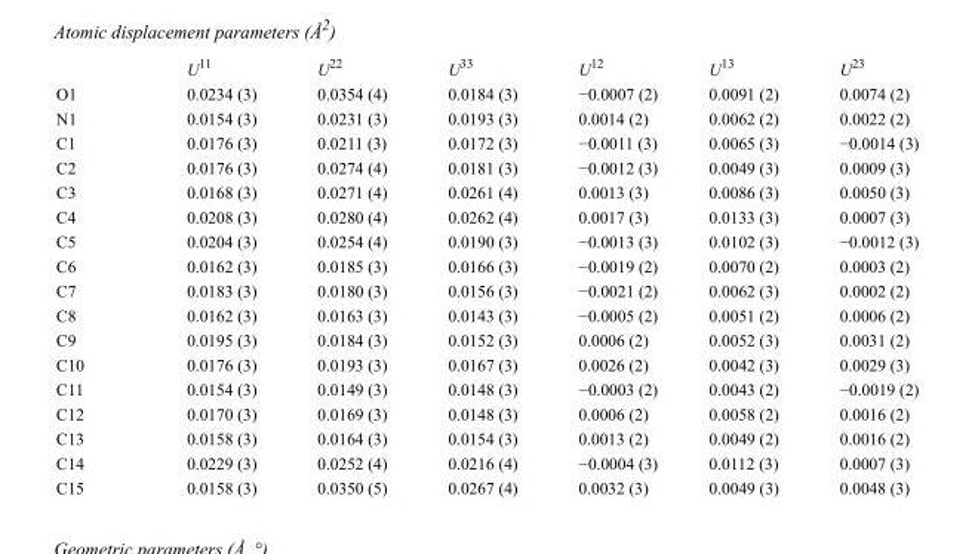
<table><thead><tr><td></td><td>U<sup>11</sup></td><td>U<sup>22</sup></td><td>U<sup>33</sup></td><td>U<sup>12</sup></td><td>U<sup>13</sup></td><td>U<sup>23</sup></td></tr></thead><tbody><tr><td>O1</td><td>0.0234 (3)</td><td>0.0354 (4)</td><td>0.0184 (3)</td><td>−0.0007 (2)</td><td>0.0091 (2)</td><td>0.0074 (2)</td></tr><tr><td>N1</td><td>0.0154 (3)</td><td>0.0231 (3)</td><td>0.0193 (3)</td><td>0.0014 (2)</td><td>0.0062 (2)</td><td>0.0022 (2)</td></tr><tr><td>C1</td><td>0.0176 (3)</td><td>0.0211 (3)</td><td>0.0172 (3)</td><td>−0.0011 (3)</td><td>0.0065 (3)</td><td>−0.0014 (3)</td></tr><tr><td>C2</td><td>0.0176 (3)</td><td>0.0274 (4)</td><td>0.0181 (3)</td><td>−0.0012 (3)</td><td>0.0049 (3)</td><td>0.0009 (3)</td></tr><tr><td>C3</td><td>0.0168 (3)</td><td>0.0271 (4)</td><td>0.0261 (4)</td><td>0.0013 (3)</td><td>0.0086 (3)</td><td>0.0050 (3)</td></tr><tr><td>C4</td><td>0.0208 (3)</td><td>0.0280 (4)</td><td>0.0262 (4)</td><td>0.0017 (3)</td><td>0.0133 (3)</td><td>0.0007 (3)</td></tr><tr><td>C5</td><td>0.0204 (3)</td><td>0.0254 (4)</td><td>0.0190 (3)</td><td>−0.0013 (3)</td><td>0.0102 (3)</td><td>−0.0012 (3)</td></tr><tr><td>C6</td><td>0.0162 (3)</td><td>0.0185 (3)</td><td>0.0166 (3)</td><td>−0.0019 (2)</td><td>0.0070 (2)</td><td>0.0003 (2)</td></tr><tr><td>C7</td><td>0.0183 (3)</td><td>0.0180 (3)</td><td>0.0156 (3)</td><td>−0.0021 (2)</td><td>0.0062 (3)</td><td>0.0002 (2)</td></tr><tr><td>C8</td><td>0.0162 (3)</td><td>0.0163 (3)</td><td>0.0143 (3)</td><td>−0.0005 (2)</td><td>0.0051 (2)</td><td>0.0006 (2)</td></tr><tr><td>C9</td><td>0.0195 (3)</td><td>0.0184 (3)</td><td>0.0152 (3)</td><td>0.0006 (2)</td><td>0.0052 (3)</td><td>0.0031 (2)</td></tr><tr><td>C10</td><td>0.0176 (3)</td><td>0.0193 (3)</td><td>0.0167 (3)</td><td>0.0026 (2)</td><td>0.0042 (3)</td><td>0.0029 (3)</td></tr><tr><td>C11</td><td>0.0154 (3)</td><td>0.0149 (3)</td><td>0.0148 (3)</td><td>−0.0003 (2)</td><td>0.0043 (2)</td><td>−0.0019 (2)</td></tr><tr><td>C12</td><td>0.0170 (3)</td><td>0.0169 (3)</td><td>0.0148 (3)</td><td>0.0006 (2)</td><td>0.0058 (2)</td><td>0.0016 (2)</td></tr><tr><td>C13</td><td>0.0158 (3)</td><td>0.0164 (3)</td><td>0.0154 (3)</td><td>0.0013 (2)</td><td>0.0049 (2)</td><td>0.0016 (2)</td></tr><tr><td>C14</td><td>0.0229 (3)</td><td>0.0252 (4)</td><td>0.0216 (4)</td><td>−0.0004 (3)</td><td>0.0112 (3)</td><td>0.0007 (3)</td></tr><tr><td>C15</td><td>0.0158 (3)</td><td>0.0350 (5)</td><td>0.0267 (4)</td><td>0.0032 (3)</td><td>0.0049 (3)</td><td>0.0048 (3)</td></tr></tbody></table>